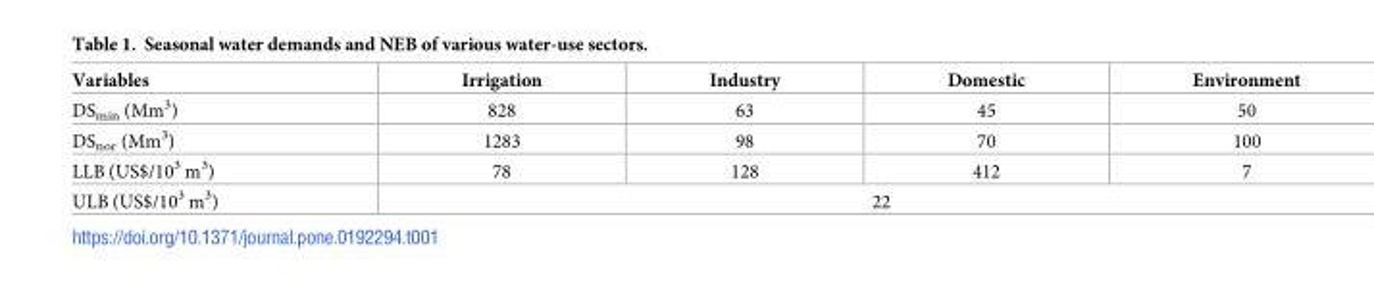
<table><thead><tr><td>Variables</td><td>Irrigation</td><td>Industry</td><td>Domestic</td><td>Environment</td></tr></thead><tbody><tr><td>DS<sub>min</sub> (Mm<sup>3</sup>)</td><td>828</td><td>63</td><td>45</td><td>50</td></tr><tr><td>DS<sub>nor</sub> (Mm<sup>3</sup>)</td><td>1283</td><td>98</td><td>70</td><td>100</td></tr><tr><td>LLB (US$/10<sup>3</sup> m<sup>3</sup>)</td><td>78</td><td>128</td><td>412</td><td>7</td></tr><tr><td>ULB (US$/10<sup>3</sup> m<sup>3</sup>)</td><td colspan="4">22</td></tr></tbody></table>